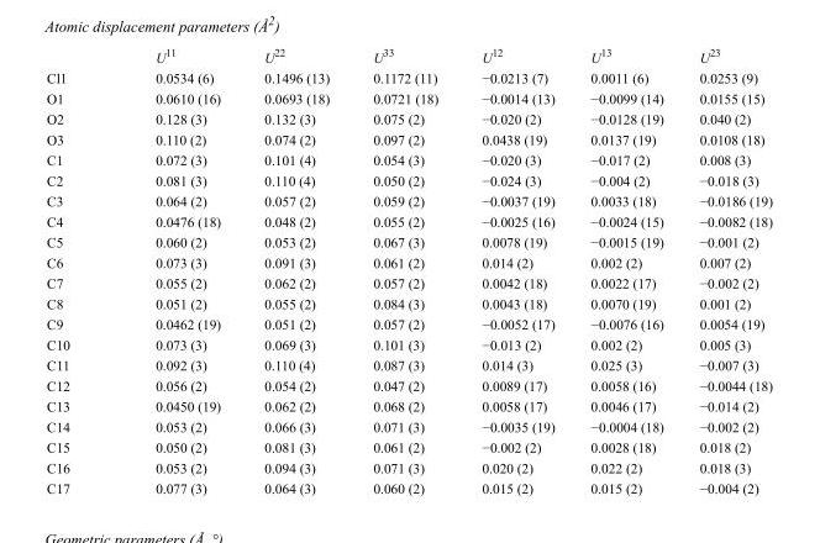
<table><thead><tr><td></td><td>U<sup>11</sup></td><td>U<sup>22</sup></td><td>U<sup>33</sup></td><td>U<sup>12</sup></td><td>U<sup>13</sup></td><td>U<sup>23</sup></td></tr></thead><tbody><tr><td>Cl1</td><td>0.0534 (6)</td><td>0.1496 (13)</td><td>0.1172 (11)</td><td>−0.0213 (7)</td><td>0.0011 (6)</td><td>0.0253 (9)</td></tr><tr><td>O1</td><td>0.0610 (16)</td><td>0.0693 (18)</td><td>0.0721 (18)</td><td>−0.0014 (13)</td><td>−0.0099 (14)</td><td>0.0155 (15)</td></tr><tr><td>O2</td><td>0.128 (3)</td><td>0.132 (3)</td><td>0.075 (2)</td><td>−0.020 (2)</td><td>−0.0128 (19)</td><td>0.040 (2)</td></tr><tr><td>O3</td><td>0.110 (2)</td><td>0.074 (2)</td><td>0.097 (2)</td><td>0.0438 (19)</td><td>0.0137 (19)</td><td>0.0108 (18)</td></tr><tr><td>C1</td><td>0.072 (3)</td><td>0.101 (4)</td><td>0.054 (3)</td><td>−0.020 (3)</td><td>−0.017 (2)</td><td>0.008 (3)</td></tr><tr><td>C2</td><td>0.081 (3)</td><td>0.110 (4)</td><td>0.050 (2)</td><td>−0.024 (3)</td><td>−0.004 (2)</td><td>−0.018 (3)</td></tr><tr><td>C3</td><td>0.064 (2)</td><td>0.057 (2)</td><td>0.059 (2)</td><td>−0.0037 (19)</td><td>0.0033 (18)</td><td>−0.0186 (19)</td></tr><tr><td>C4</td><td>0.0476 (18)</td><td>0.048 (2)</td><td>0.055 (2)</td><td>−0.0025 (16)</td><td>−0.0024 (15)</td><td>−0.0082 (18)</td></tr><tr><td>C5</td><td>0.060 (2)</td><td>0.053 (2)</td><td>0.067 (3)</td><td>0.0078 (19)</td><td>−0.0015 (19)</td><td>−0.001 (2)</td></tr><tr><td>C6</td><td>0.073 (3)</td><td>0.091 (3)</td><td>0.061 (2)</td><td>0.014 (2)</td><td>0.002 (2)</td><td>0.007 (2)</td></tr><tr><td>C7</td><td>0.055 (2)</td><td>0.062 (2)</td><td>0.057 (2)</td><td>0.0042 (18)</td><td>0.0022 (17)</td><td>−0.002 (2)</td></tr><tr><td>C8</td><td>0.051 (2)</td><td>0.055 (2)</td><td>0.084 (3)</td><td>0.0043 (18)</td><td>0.0070 (19)</td><td>0.001 (2)</td></tr><tr><td>C9</td><td>0.0462 (19)</td><td>0.051 (2)</td><td>0.057 (2)</td><td>−0.0052 (17)</td><td>−0.0076 (16)</td><td>0.0054 (19)</td></tr><tr><td>C10</td><td>0.073 (3)</td><td>0.069 (3)</td><td>0.101 (3)</td><td>−0.013 (2)</td><td>0.002 (2)</td><td>0.005 (3)</td></tr><tr><td>C11</td><td>0.092 (3)</td><td>0.110 (4)</td><td>0.087 (3)</td><td>0.014 (3)</td><td>0.025 (3)</td><td>−0.007 (3)</td></tr><tr><td>C12</td><td>0.056 (2)</td><td>0.054 (2)</td><td>0.047 (2)</td><td>0.0089 (17)</td><td>0.0058 (16)</td><td>−0.0044 (18)</td></tr><tr><td>C13</td><td>0.0450 (19)</td><td>0.062 (2)</td><td>0.068 (2)</td><td>0.0058 (17)</td><td>0.0046 (17)</td><td>−0.014 (2)</td></tr><tr><td>C14</td><td>0.053 (2)</td><td>0.066 (3)</td><td>0.071 (3)</td><td>−0.0035 (19)</td><td>−0.0004 (18)</td><td>−0.002 (2)</td></tr><tr><td>C15</td><td>0.050 (2)</td><td>0.081 (3)</td><td>0.061 (2)</td><td>−0.002 (2)</td><td>0.0028 (18)</td><td>0.018 (2)</td></tr><tr><td>C16</td><td>0.053 (2)</td><td>0.094 (3)</td><td>0.071 (3)</td><td>0.020 (2)</td><td>0.022 (2)</td><td>0.018 (3)</td></tr><tr><td>C17</td><td>0.077 (3)</td><td>0.064 (3)</td><td>0.060 (2)</td><td>0.015 (2)</td><td>0.015 (2)</td><td>−0.004 (2)</td></tr></tbody></table>